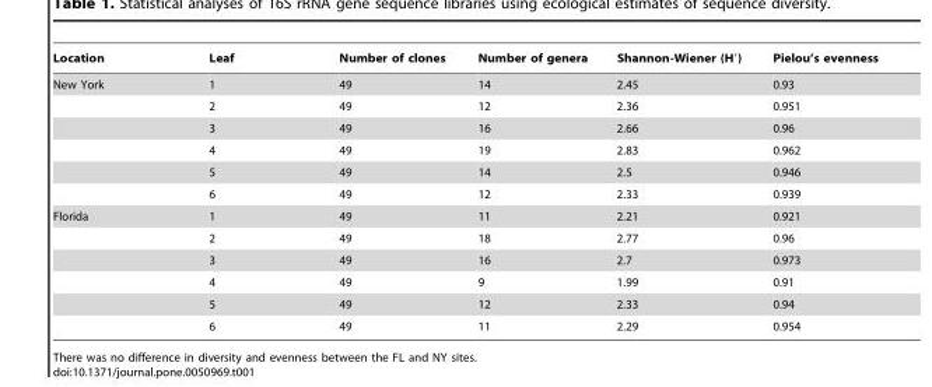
<table><thead><tr><td>Location</td><td>Leaf</td><td>Number of clones</td><td>Number of genera</td><td>Shannon-Wiener (H′)</td><td>Pielou’s evenness</td></tr></thead><tbody><tr><td rowspan="6">New York</td><td>1</td><td>49</td><td>14</td><td>2.45</td><td>0.93</td></tr><tr><td>2</td><td>49</td><td>12</td><td>2.36</td><td>0.951</td></tr><tr><td>3</td><td>49</td><td>16</td><td>2.66</td><td>0.96</td></tr><tr><td>4</td><td>49</td><td>19</td><td>2.83</td><td>0.962</td></tr><tr><td>5</td><td>49</td><td>14</td><td>2.5</td><td>0.946</td></tr><tr><td>6</td><td>49</td><td>12</td><td>2.33</td><td>0.939</td></tr><tr><td rowspan="6">Florida</td><td>1</td><td>49</td><td>11</td><td>2.21</td><td>0.921</td></tr><tr><td>2</td><td>49</td><td>18</td><td>2.77</td><td>0.96</td></tr><tr><td>3</td><td>49</td><td>16</td><td>2.7</td><td>0.973</td></tr><tr><td>4</td><td>49</td><td>9</td><td>1.99</td><td>0.91</td></tr><tr><td>5</td><td>49</td><td>12</td><td>2.33</td><td>0.94</td></tr><tr><td>6</td><td>49</td><td>11</td><td>2.29</td><td>0.954</td></tr></tbody></table>